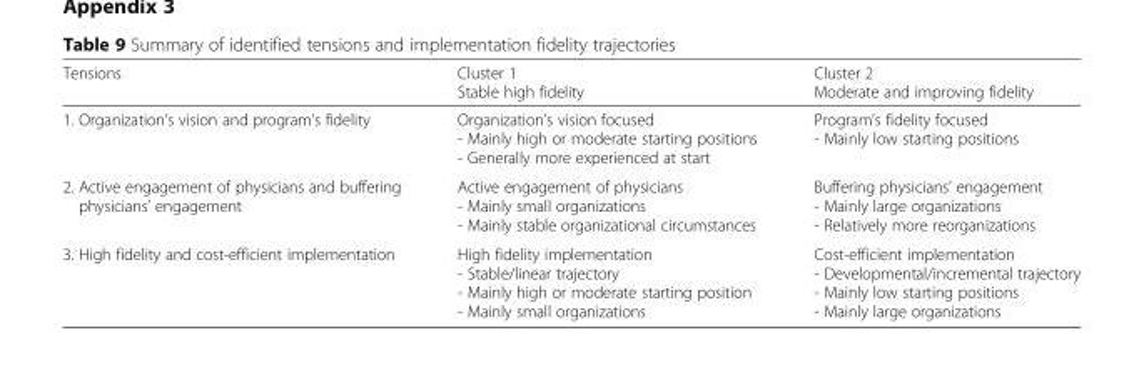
<table><thead><tr><td>Tensions</td><td>Cluster 1 Stable high fidelity</td><td>Cluster 2 Moderate and improving fidelity</td></tr></thead><tbody><tr><td>1. Organization’s vision and program’s fidelity</td><td>Organization’s vision focused - Mainly high or moderate starting positions - Generally more experienced at start</td><td>Program’s fidelity focused - Mainly low starting positions</td></tr><tr><td>2. Active engagement of physicians and buffering physicians’ engagement</td><td>Active engagement of physicians - Mainly small organizations - Mainly stable organizational circumstances</td><td>Buffering physicians’ engagement - Mainly large organizations - Relatively more reorganizations</td></tr><tr><td>3. High fidelity and cost-efficient implementation</td><td>High fidelity implementation - Stable/linear trajectory - Mainly high or moderate starting position - Mainly small organizations</td><td>Cost-efficient implementation - Developmental/incremental trajectory - Mainly low starting positions - Mainly large organizations</td></tr></tbody></table>